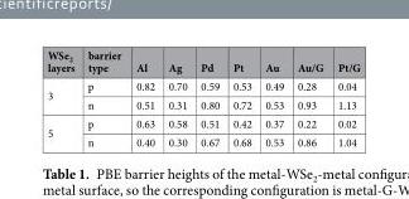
<table><thead><tr><td>WSe<sub>2</sub> layers</td><td>barrier type</td><td>Al</td><td>Ag</td><td>Pd</td><td>Pt</td><td>Au</td><td>Au/G</td><td>Pt/G</td></tr></thead><tbody><tr><td rowspan="2">3</td><td>p</td><td>0.82</td><td>0.70</td><td>0.59</td><td>0.53</td><td>0.49</td><td>0.28</td><td>0.04</td></tr><tr><td>n</td><td>0.51</td><td>0.31</td><td>0.80</td><td>0.72</td><td>0.53</td><td>0.93</td><td>1.13</td></tr><tr><td rowspan="2">5</td><td>p</td><td>0.63</td><td>0.58</td><td>0.51</td><td>0.42</td><td>0.37</td><td>0.22</td><td>0.02</td></tr><tr><td>n</td><td>0.40</td><td>0.30</td><td>0.67</td><td>0.68</td><td>0.53</td><td>0.86</td><td>1.04</td></tr></tbody></table>